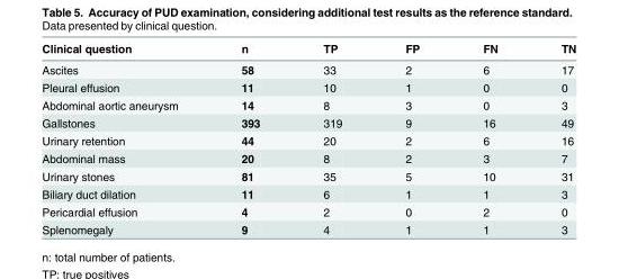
<table><thead><tr><td>Clinical question</td><td>n</td><td>TP</td><td>FP</td><td>FN</td><td>TN</td></tr></thead><tbody><tr><td>Ascites</td><td>58</td><td>33</td><td>2</td><td>6</td><td>17</td></tr><tr><td>Pleural effusion</td><td>11</td><td>10</td><td>1</td><td>0</td><td>0</td></tr><tr><td>Abdominal aortic aneurysm</td><td>14</td><td>8</td><td>3</td><td>0</td><td>3</td></tr><tr><td>Gallstones</td><td>393</td><td>319</td><td>9</td><td>16</td><td>49</td></tr><tr><td>Urinary retention</td><td>44</td><td>20</td><td>2</td><td>6</td><td>16</td></tr><tr><td>Abdominal mass</td><td>20</td><td>8</td><td>2</td><td>3</td><td>7</td></tr><tr><td>Urinary stones</td><td>81</td><td>35</td><td>5</td><td>10</td><td>31</td></tr><tr><td>Biliary duct dilation</td><td>11</td><td>6</td><td>1</td><td>1</td><td>3</td></tr><tr><td>Pericardial effusion</td><td>4</td><td>2</td><td>0</td><td>2</td><td>0</td></tr><tr><td>Splenomegaly</td><td>9</td><td>4</td><td>1</td><td>1</td><td>3</td></tr></tbody></table>